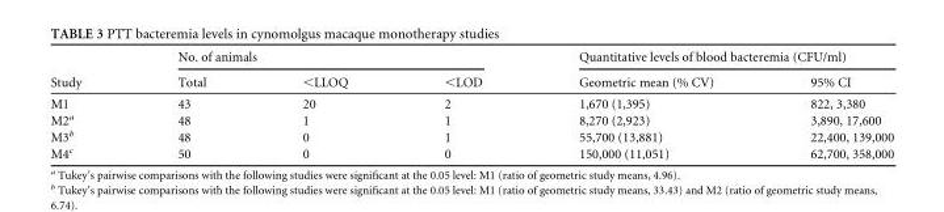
<table><thead><tr><td rowspan="2">Study</td><td colspan="3">No. of animals</td><td colspan="2">Quantitative levels of blood bacteremia (CFU/ml)</td></tr><tr><td>Total</td><td>&lt;LLOQ</td><td>&lt;LOD</td><td>Geometric mean (% CV)</td><td>95% CI</td></tr></thead><tbody><tr><td>M1</td><td>43</td><td>20</td><td>2</td><td>1,670 (1,395)</td><td>822, 3,380</td></tr><tr><td>M2<sup>a</sup></td><td>48</td><td>1</td><td>1</td><td>8,270 (2,923)</td><td>3,890, 17,600</td></tr><tr><td>M3<sup>b</sup></td><td>48</td><td>0</td><td>1</td><td>55,700 (13,881)</td><td>22,400, 139,000</td></tr><tr><td>M4<sup>c</sup></td><td>50</td><td>0</td><td>0</td><td>150,000 (11,051)</td><td>62,700, 358,000</td></tr></tbody></table>